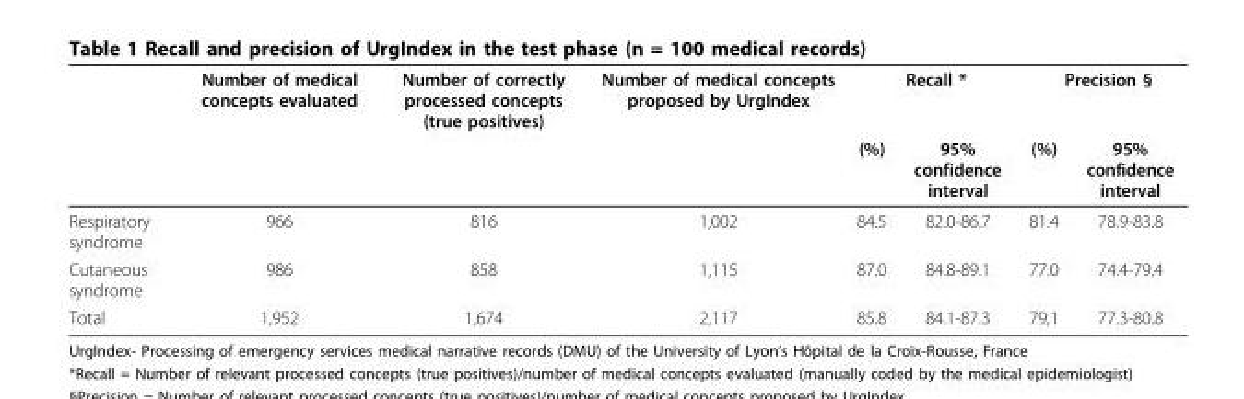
<table><thead><tr><td rowspan="2"></td><td rowspan="2">Number of medical concepts evaluated</td><td rowspan="2">Number of correctly processed concepts (true positives)</td><td rowspan="2">Number of medical concepts proposed by UrgIndex</td><td colspan="2">Recall *</td><td colspan="2">Precision §</td></tr><tr><td>(%)</td><td>95% confidence interval</td><td>(%)</td><td>95% confidence interval</td></tr></thead><tbody><tr><td>Respiratory syndrome</td><td>966</td><td>816</td><td>1,002</td><td>84.5</td><td>82.0-86.7</td><td>81.4</td><td>78.9-83.8</td></tr><tr><td>Cutaneous syndrome</td><td>986</td><td>858</td><td>1,115</td><td>87.0</td><td>84.8-89.1</td><td>77.0</td><td>74.4-79.4</td></tr><tr><td>Total</td><td>1,952</td><td>1,674</td><td>2,117</td><td>85.8</td><td>84.1-87.3</td><td>79,1</td><td>77.3-80.8</td></tr></tbody></table>